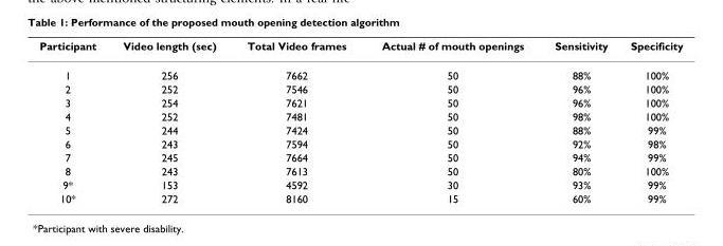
<table><thead><tr><td>Participant</td><td>Video length (sec)</td><td>Total Video frames</td><td>Actual # of mouth openings</td><td>Sensitivity</td><td>Specificity</td></tr></thead><tbody><tr><td>1</td><td>256</td><td>7662</td><td>50</td><td>88%</td><td>100%</td></tr><tr><td>2</td><td>252</td><td>7546</td><td>50</td><td>96%</td><td>100%</td></tr><tr><td>3</td><td>254</td><td>7621</td><td>50</td><td>96%</td><td>100%</td></tr><tr><td>4</td><td>252</td><td>7481</td><td>50</td><td>98%</td><td>100%</td></tr><tr><td>5</td><td>244</td><td>7424</td><td>50</td><td>88%</td><td>99%</td></tr><tr><td>6</td><td>243</td><td>7594</td><td>50</td><td>92%</td><td>98%</td></tr><tr><td>7</td><td>245</td><td>7664</td><td>50</td><td>94%</td><td>99%</td></tr><tr><td>8</td><td>243</td><td>7613</td><td>50</td><td>80%</td><td>100%</td></tr><tr><td>9*</td><td>153</td><td>4592</td><td>30</td><td>93%</td><td>99%</td></tr><tr><td>10*</td><td>272</td><td>8160</td><td>15</td><td>60%</td><td>99%</td></tr></tbody></table>